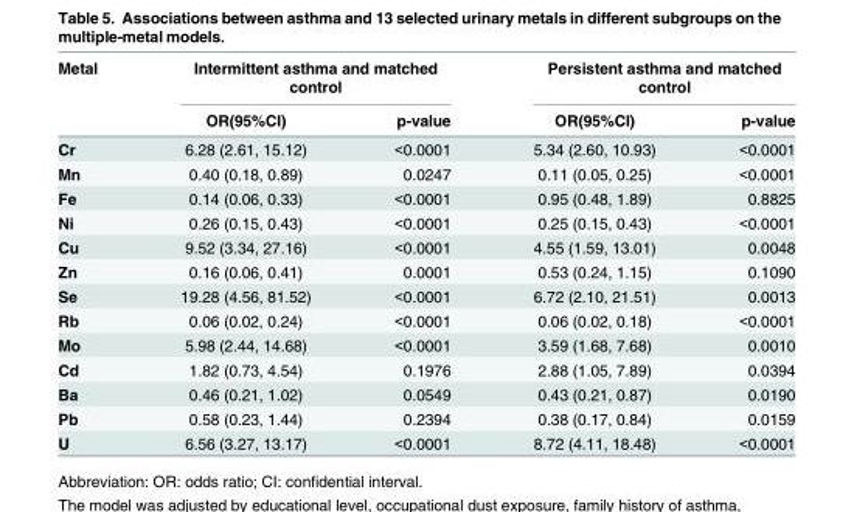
<table><thead><tr><td rowspan="2">Metal</td><td colspan="2">Intermittent asthma and matched control</td><td colspan="2">Persistent asthma and matched control</td></tr><tr><td>OR(95%CI)</td><td>p-value</td><td>OR(95%CI)</td><td>p-value</td></tr></thead><tbody><tr><td>Cr</td><td>6.28 (2.61, 15.12)</td><td>&lt;0.0001</td><td>5.34 (2.60, 10.93)</td><td>&lt;0.0001</td></tr><tr><td>Mn</td><td>0.40 (0.18, 0.89)</td><td>0.0247</td><td>0.11 (0.05, 0.25)</td><td>&lt;0.0001</td></tr><tr><td>Fe</td><td>0.14 (0.06, 0.33)</td><td>&lt;0.0001</td><td>0.95 (0.48, 1.89)</td><td>0.8825</td></tr><tr><td>Ni</td><td>0.26 (0.15, 0.43)</td><td>&lt;0.0001</td><td>0.25 (0.15, 0.43)</td><td>&lt;0.0001</td></tr><tr><td>Cu</td><td>9.52 (3.34, 27.16)</td><td>&lt;0.0001</td><td>4.55 (1.59, 13.01)</td><td>0.0048</td></tr><tr><td>Zn</td><td>0.16 (0.06, 0.41)</td><td>0.0001</td><td>0.53 (0.24, 1.15)</td><td>0.1090</td></tr><tr><td>Se</td><td>19.28 (4.56, 81.52)</td><td>&lt;0.0001</td><td>6.72 (2.10, 21.51)</td><td>0.0013</td></tr><tr><td>Rb</td><td>0.06 (0.02, 0.24)</td><td>&lt;0.0001</td><td>0.06 (0.02, 0.18)</td><td>&lt;0.0001</td></tr><tr><td>Mo</td><td>5.98 (2.44, 14.68)</td><td>&lt;0.0001</td><td>3.59 (1.68, 7.68)</td><td>0.0010</td></tr><tr><td>Cd</td><td>1.82 (0.73, 4.54)</td><td>0.1976</td><td>2.88 (1.05, 7.89)</td><td>0.0394</td></tr><tr><td>Ba</td><td>0.46 (0.21, 1.02)</td><td>0.0549</td><td>0.43 (0.21, 0.87)</td><td>0.0190</td></tr><tr><td>Pb</td><td>0.58 (0.23, 1.44)</td><td>0.2394</td><td>0.38 (0.17, 0.84)</td><td>0.0159</td></tr><tr><td>U</td><td>6.56 (3.27, 13.17)</td><td>&lt;0.0001</td><td>8.72 (4.11, 18.48)</td><td>&lt;0.0001</td></tr></tbody></table>